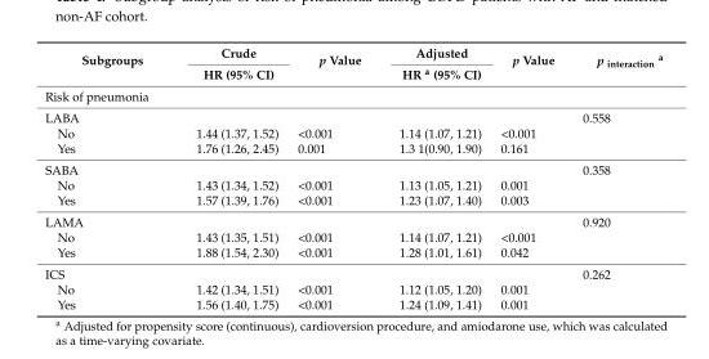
<table><thead><tr><td rowspan="2">Subgroups</td><td rowspan="2">Crude HR (95% CI)</td><td rowspan="2">p Value</td><td rowspan="2">Adjusted HR <sup>a</sup> (95% CI)</td><td rowspan="2">p Value</td><td rowspan="2">p <sub>interaction</sub> <sup>a</sup></td></tr><tr></tr></thead><tbody><tr><td colspan="6">Risk of pneumonia</td></tr><tr><td>LABA</td><td></td><td></td><td></td><td></td><td>0.558</td></tr><tr><td>No</td><td>1.44 (1.37, 1.52)</td><td>&lt;0.001</td><td>1.14 (1.07, 1.21)</td><td>&lt;0.001</td><td></td></tr><tr><td>Yes</td><td>1.76 (1.26, 2.45)</td><td>0.001</td><td>1.3 1(0.90, 1.90)</td><td>0.161</td><td></td></tr><tr><td>SABA</td><td></td><td></td><td></td><td></td><td>0.358</td></tr><tr><td>No</td><td>1.43 (1.34, 1.52)</td><td>&lt;0.001</td><td>1.13 (1.05, 1.21)</td><td>0.001</td><td></td></tr><tr><td>Yes</td><td>1.57 (1.39, 1.76)</td><td>&lt;0.001</td><td>1.23 (1.07, 1.40)</td><td>0.003</td><td></td></tr><tr><td>LAMA</td><td></td><td></td><td></td><td></td><td>0.920</td></tr><tr><td>No</td><td>1.43 (1.35, 1.51)</td><td>&lt;0.001</td><td>1.14 (1.07, 1.21)</td><td>&lt;0.001</td><td></td></tr><tr><td>Yes</td><td>1.88 (1.54, 2.30)</td><td>&lt;0.001</td><td>1.28 (1.01, 1.61)</td><td>0.042</td><td></td></tr><tr><td>ICS</td><td></td><td></td><td></td><td></td><td>0.262</td></tr><tr><td>No</td><td>1.42 (1.34, 1.51)</td><td>&lt;0.001</td><td>1.12 (1.05, 1.20)</td><td>0.001</td><td></td></tr><tr><td>Yes</td><td>1.56 (1.40, 1.75)</td><td>&lt;0.001</td><td>1.24 (1.09, 1.41)</td><td>0.001</td><td></td></tr></tbody></table>